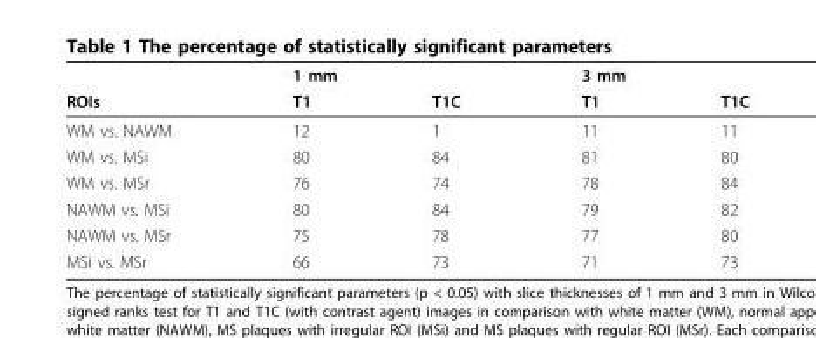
<table><thead><tr><td rowspan="2">ROIs</td><td colspan="2">1 mm</td><td colspan="2">3 mm</td></tr><tr><td>T1</td><td>T1C</td><td>T1</td><td>T1C</td></tr></thead><tbody><tr><td>WM vs. NAWM</td><td>12</td><td>1</td><td>11</td><td>11</td></tr><tr><td>WM vs. MSi</td><td>80</td><td>84</td><td>81</td><td>80</td></tr><tr><td>WM vs. MSr</td><td>76</td><td>74</td><td>78</td><td>84</td></tr><tr><td>NAWM vs. MSi</td><td>80</td><td>84</td><td>79</td><td>82</td></tr><tr><td>NAWM vs. MSr</td><td>75</td><td>78</td><td>77</td><td>80</td></tr><tr><td>MSi vs. MSr</td><td>66</td><td>73</td><td>71</td><td>73</td></tr></tbody></table>